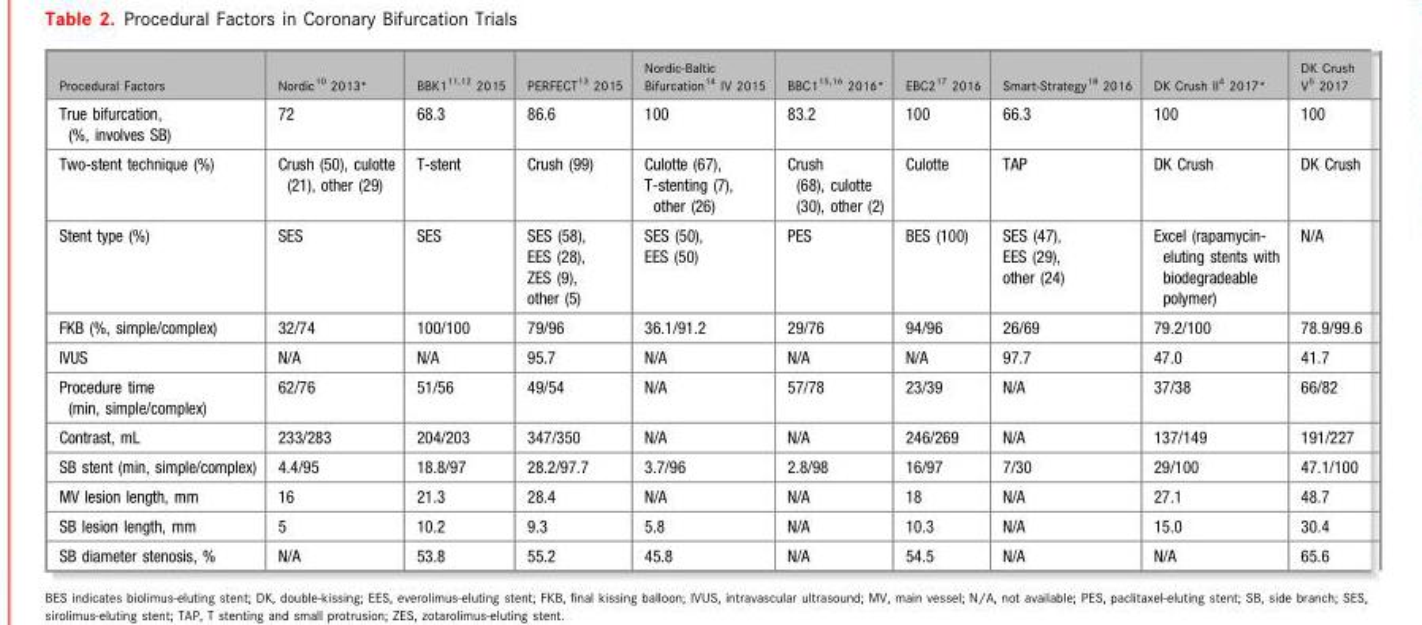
<table><thead><tr><td>Procedural Factors</td><td>Nordic10 2013*</td><td>BBK1<sup>11</sup>,<sup>12</sup> 2015</td><td>PERFECT<sup>13</sup> 2015</td><td>Nordic-Baltic Bifurcation<sup>14</sup> IV 2015</td><td>BBC115,16 2016*</td><td>EBC2<sup>17</sup> 2016</td><td>Smart-Strategy<sup>18</sup> 2016</td><td>DK Crush II4 2017*</td><td>DK Crush V<sup>5</sup> 2017</td></tr></thead><tbody><tr><td>True bifurcation, (%, involves SB)</td><td>72</td><td>68.3</td><td>86.6</td><td>100</td><td>83.2</td><td>100</td><td>66.3</td><td>100</td><td>100</td></tr><tr><td>Two-stent technique (%)</td><td>Crush (50), culotte (21), other (29)</td><td>T-stent</td><td>Crush (99)</td><td>Culotte (67), T-stenting (7), other (26)</td><td>Crush (68), culotte (30), other (2)</td><td>Culotte</td><td>TAP</td><td>DK Crush</td><td>DK Crush</td></tr><tr><td>Stent type (%)</td><td>SES</td><td>SES</td><td>SES (58), EES (28), ZES (9), other (5)</td><td>SES (50), EES (50)</td><td>PES</td><td>BES (100)</td><td>SES (47), EES (29), other (24)</td><td>Excel (rapamycin- eluting stents with biodegradeable polymer)</td><td>N/A</td></tr><tr><td>FKB (%, simple/complex)</td><td>32/74</td><td>100/100</td><td>79/96</td><td>36.1/91.2</td><td>29/76</td><td>94/96</td><td>26/69</td><td>79.2/100</td><td>78.9/99.6</td></tr><tr><td>IVUS</td><td>N/A</td><td>N/A</td><td>95.7</td><td>N/A</td><td>N/A</td><td>N/A</td><td>97.7</td><td>47.0</td><td>41.7</td></tr><tr><td>Procedure time (min, simple/complex)</td><td>62/76</td><td>51/56</td><td>49/54</td><td>N/A</td><td>57/78</td><td>23/39</td><td>N/A</td><td>37/38</td><td>66/82</td></tr><tr><td>Contrast, mL</td><td>233/283</td><td>204/203</td><td>347/350</td><td>N/A</td><td>N/A</td><td>246/269</td><td>N/A</td><td>137/149</td><td>191/227</td></tr><tr><td>SB stent (min, simple/complex)</td><td>4.4/95</td><td>18.8/97</td><td>28.2/97.7</td><td>3.7/96</td><td>2.8/98</td><td>16/97</td><td>7/30</td><td>29/100</td><td>47.1/100</td></tr><tr><td>MV lesion length, mm</td><td>16</td><td>21.3</td><td>28.4</td><td>N/A</td><td>N/A</td><td>18</td><td>N/A</td><td>27.1</td><td>48.7</td></tr><tr><td>SB lesion length, mm</td><td>5</td><td>10.2</td><td>9.3</td><td>5.8</td><td>N/A</td><td>10.3</td><td>N/A</td><td>15.0</td><td>30.4</td></tr><tr><td>SB diameter stenosis, %</td><td>N/A</td><td>53.8</td><td>55.2</td><td>45.8</td><td>N/A</td><td>54.5</td><td>N/A</td><td>N/A</td><td>65.6</td></tr></tbody></table>